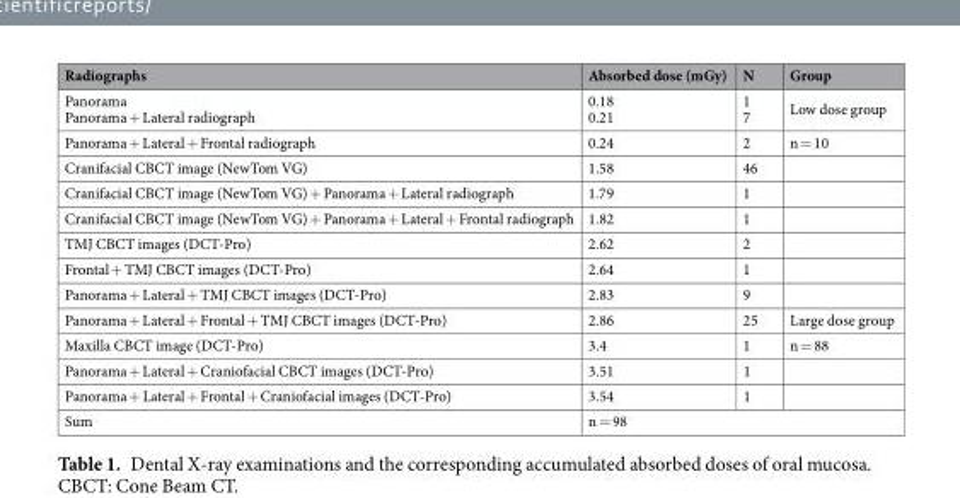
<table><thead><tr><td>Radiographs</td><td>Absorbed dose (mGy)</td><td>N</td><td>Group</td></tr></thead><tbody><tr><td>Panorama Panorama + Lateral radiograph</td><td>0.18 0.21</td><td>1 7</td><td>Low dose group</td></tr><tr><td>Panorama + Lateral + Frontal radiograph</td><td>0.24</td><td>2</td><td>n = 10</td></tr><tr><td>Cranifacial CBCT image (NewTom VG)</td><td>1.58</td><td>46</td><td></td></tr><tr><td>Cranifacial CBCT image (NewTom VG) + Panorama + Lateral radiograph</td><td>1.79</td><td>1</td><td></td></tr><tr><td>Cranifacial CBCT image (NewTom VG) + Panorama + Lateral + Frontal radiograph</td><td>1.82</td><td>1</td><td></td></tr><tr><td>TMJ CBCT images (DCT-Pro)</td><td>2.62</td><td>2</td><td></td></tr><tr><td>Frontal + TMJ CBCT images (DCT-Pro)</td><td>2.64</td><td>1</td><td></td></tr><tr><td>Panorama + Lateral + TMJ CBCT images (DCT-Pro)</td><td>2.83</td><td>9</td><td></td></tr><tr><td>Panorama + Lateral + Frontal + TMJ CBCT images (DCT-Pro)</td><td>2.86</td><td>25</td><td>Large dose group</td></tr><tr><td>Maxilla CBCT image (DCT-Pro)</td><td>3.4</td><td>1</td><td>n = 88</td></tr><tr><td>Panorama + Lateral + Craniofacial CBCT images (DCT-Pro)</td><td>3.51</td><td>1</td><td></td></tr><tr><td>Panorama + Lateral + Frontal + Craniofacial images (DCT-Pro)</td><td>3.54</td><td>1</td><td></td></tr><tr><td>Sum</td><td colspan="3">n = 98</td></tr></tbody></table>